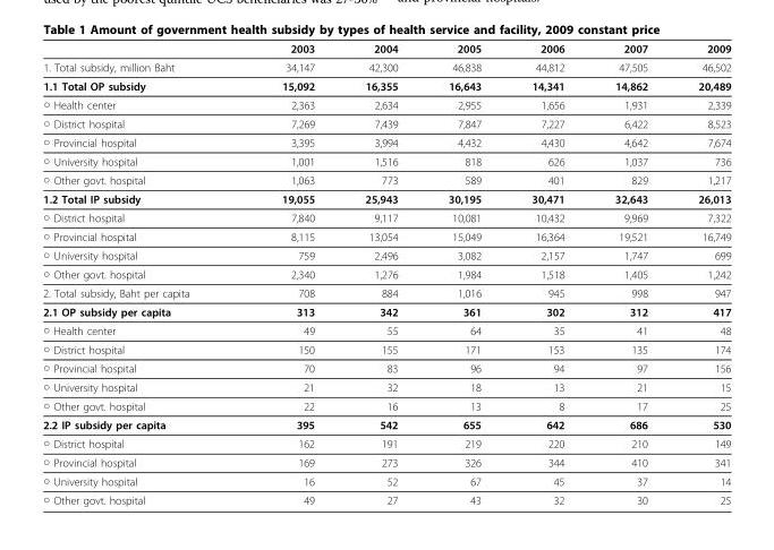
<table><thead><tr><td></td><td>2003</td><td>2004</td><td>2005</td><td>2006</td><td>2007</td><td>2009</td></tr></thead><tbody><tr><td>1. Total subsidy, million Baht</td><td>34,147</td><td>42,300</td><td>46,838</td><td>44,812</td><td>47,505</td><td>46,502</td></tr><tr><td>1.1 Total OP subsidy</td><td>15,092</td><td>16,355</td><td>16,643</td><td>14,341</td><td>14,862</td><td>20,489</td></tr><tr><td>○ Health center</td><td>2,363</td><td>2,634</td><td>2,955</td><td>1,656</td><td>1,931</td><td>2,339</td></tr><tr><td>○ District hospital</td><td>7,269</td><td>7,439</td><td>7,847</td><td>7,227</td><td>6,422</td><td>8,523</td></tr><tr><td>○ Provincial hospital</td><td>3,395</td><td>3,994</td><td>4,432</td><td>4,430</td><td>4,642</td><td>7,674</td></tr><tr><td>○ University hospital</td><td>1,001</td><td>1,516</td><td>818</td><td>626</td><td>1,037</td><td>736</td></tr><tr><td>○ Other govt. hospital</td><td>1,063</td><td>773</td><td>589</td><td>401</td><td>829</td><td>1,217</td></tr><tr><td>1.2 Total IP subsidy</td><td>19,055</td><td>25,943</td><td>30,195</td><td>30,471</td><td>32,643</td><td>26,013</td></tr><tr><td>○ District hospital</td><td>7,840</td><td>9,117</td><td>10,081</td><td>10,432</td><td>9,969</td><td>7,322</td></tr><tr><td>○ Provincial hospital</td><td>8,115</td><td>13,054</td><td>15,049</td><td>16,364</td><td>19,521</td><td>16,749</td></tr><tr><td>○ University hospital</td><td>759</td><td>2,496</td><td>3,082</td><td>2,157</td><td>1,747</td><td>699</td></tr><tr><td>○ Other govt. hospital</td><td>2,340</td><td>1,276</td><td>1,984</td><td>1,518</td><td>1,405</td><td>1,242</td></tr><tr><td>2. Total subsidy, Baht per capita</td><td>708</td><td>884</td><td>1,016</td><td>945</td><td>998</td><td>947</td></tr><tr><td>2.1 OP subsidy per capita</td><td>313</td><td>342</td><td>361</td><td>302</td><td>312</td><td>417</td></tr><tr><td>○ Health center</td><td>49</td><td>55</td><td>64</td><td>35</td><td>41</td><td>48</td></tr><tr><td>○ District hospital</td><td>150</td><td>155</td><td>171</td><td>153</td><td>135</td><td>174</td></tr><tr><td>○ Provincial hospital</td><td>70</td><td>83</td><td>96</td><td>94</td><td>97</td><td>156</td></tr><tr><td>○ University hospital</td><td>21</td><td>32</td><td>18</td><td>13</td><td>21</td><td>15</td></tr><tr><td>○ Other govt. hospital</td><td>22</td><td>16</td><td>13</td><td>8</td><td>17</td><td>25</td></tr><tr><td>2.2 IP subsidy per capita</td><td>395</td><td>542</td><td>655</td><td>642</td><td>686</td><td>530</td></tr><tr><td>○ District hospital</td><td>162</td><td>191</td><td>219</td><td>220</td><td>210</td><td>149</td></tr><tr><td>○ Provincial hospital</td><td>169</td><td>273</td><td>326</td><td>344</td><td>410</td><td>341</td></tr><tr><td>○ University hospital</td><td>16</td><td>52</td><td>67</td><td>45</td><td>37</td><td>14</td></tr><tr><td>○ Other govt. hospital</td><td>49</td><td>27</td><td>43</td><td>32</td><td>30</td><td>25</td></tr></tbody></table>